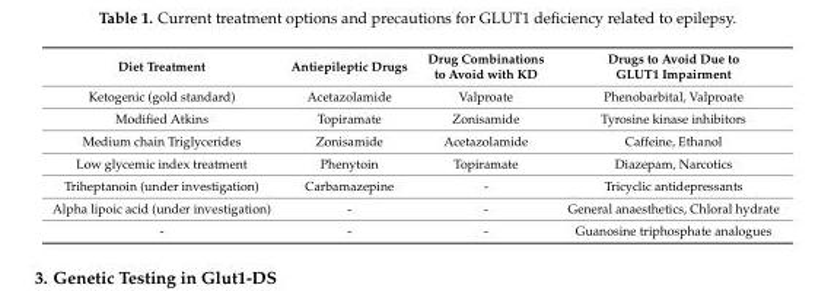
<table><thead><tr><td>Diet Treatment</td><td>Antiepileptic Drugs</td><td>Drug Combinations to Avoid with KD</td><td>Drugs to Avoid Due to GLUT1 Impairment</td></tr></thead><tbody><tr><td>Ketogenic (gold standard)</td><td>Acetazolamide</td><td>Valproate</td><td>Phenobarbital, Valproate</td></tr><tr><td>Modified Atkins</td><td>Topiramate</td><td>Zonisamide</td><td>Tyrosine kinase inhibitors</td></tr><tr><td>Medium chain Triglycerides</td><td>Zonisamide</td><td>Acetazolamide</td><td>Caffeine, Ethanol</td></tr><tr><td>Low glycemic index treatment</td><td>Phenytoin</td><td>Topiramate</td><td>Diazepam, Narcotics</td></tr><tr><td>Triheptanoin (under investigation)</td><td>Carbamazepine</td><td>-</td><td>Tricyclic antidepressants</td></tr><tr><td>Alpha lipoic acid (under investigation)</td><td>-</td><td>-</td><td>General anaesthetics, Chloral hydrate</td></tr><tr><td>-</td><td>-</td><td>-</td><td>Guanosine triphosphate analogues</td></tr></tbody></table>